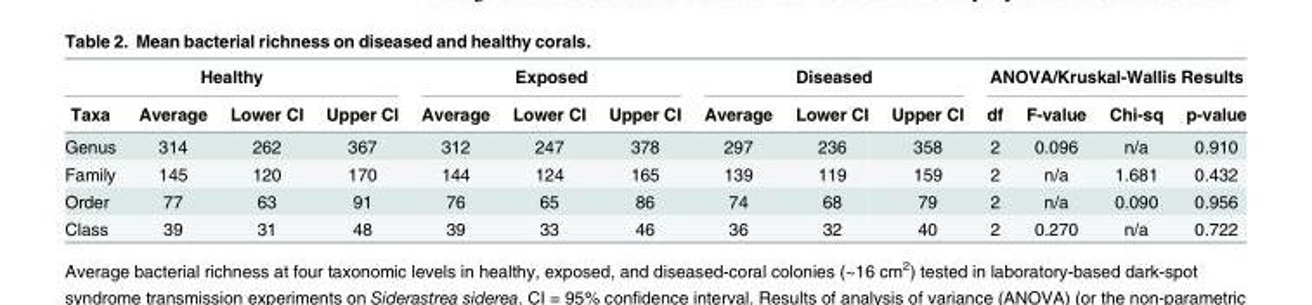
<table><thead><tr><td colspan="4">Healthy</td><td colspan="3">Exposed</td><td colspan="3">Diseased</td><td colspan="4">ANOVA/Kruskal-Wallis Results</td></tr><tr><td>Taxa</td><td>Average</td><td>Lower CI</td><td>Upper CI</td><td>Average</td><td>Lower CI</td><td>Upper CI</td><td>Average</td><td>Lower CI</td><td>Upper CI</td><td>df</td><td>F-value</td><td>Chi-sq</td><td>p-value</td></tr></thead><tbody><tr><td>Genus</td><td>314</td><td>262</td><td>367</td><td>312</td><td>247</td><td>378</td><td>297</td><td>236</td><td>358</td><td>2</td><td>0.096</td><td>n/a</td><td>0.910</td></tr><tr><td>Family</td><td>145</td><td>120</td><td>170</td><td>144</td><td>124</td><td>165</td><td>139</td><td>119</td><td>159</td><td>2</td><td>n/a</td><td>1.681</td><td>0.432</td></tr><tr><td>Order</td><td>77</td><td>63</td><td>91</td><td>76</td><td>65</td><td>86</td><td>74</td><td>68</td><td>79</td><td>2</td><td>n/a</td><td>0.090</td><td>0.956</td></tr><tr><td>Class</td><td>39</td><td>31</td><td>48</td><td>39</td><td>33</td><td>46</td><td>36</td><td>32</td><td>40</td><td>2</td><td>0.270</td><td>n/a</td><td>0.722</td></tr></tbody></table>